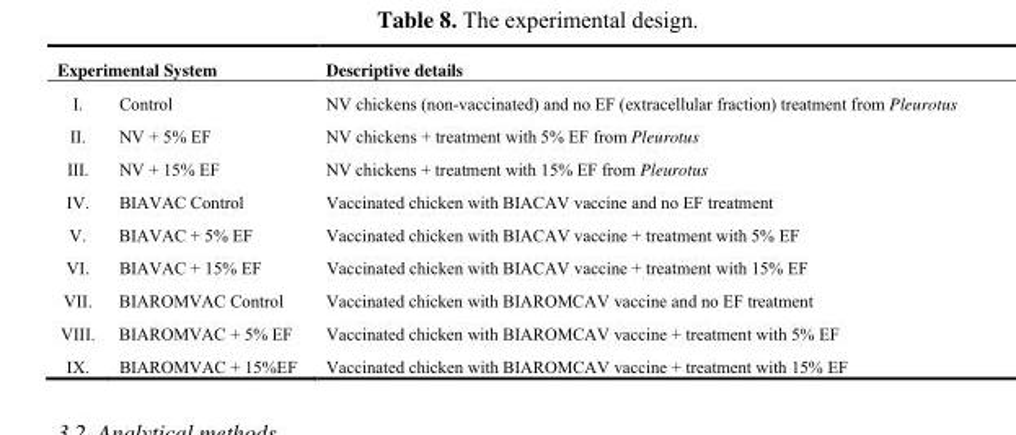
<table><thead><tr><td colspan="2">Experimental System</td><td rowspan="2">Descriptive details NV chickens (non-vaccinated) and no EF (extracellular fraction) treatment from Pleurotus</td></tr><tr><td>I.</td><td>Control</td></tr></thead><tbody><tr><td>II.</td><td>NV + 5% EF</td><td>NV chickens + treatment with 5% EF from Pleurotus</td></tr><tr><td>III.</td><td>NV + 15% EF</td><td>NV chickens + treatment with 15% EF from Pleurotus</td></tr><tr><td>IV.</td><td>BIAVAC Control</td><td>Vaccinated chicken with BIACAV vaccine and no EF treatment</td></tr><tr><td>V.</td><td>BIAVAC + 5% EF</td><td>Vaccinated chicken with BIACAV vaccine + treatment with 5% EF</td></tr><tr><td>VI.</td><td>BIAVAC + 15% EF</td><td>Vaccinated chicken with BIACAV vaccine + treatment with 15% EF</td></tr><tr><td>VII.</td><td>BIAROMVAC Control</td><td>Vaccinated chicken with BIAROMCAV vaccine and no EF treatment</td></tr><tr><td>VIII.</td><td>BIAROMVAC + 5% EF</td><td>Vaccinated chicken with BIAROMCAV vaccine + treatment with 5% EF</td></tr><tr><td>IX.</td><td>BIAROMVAC + 15%EF</td><td>Vaccinated chicken with BIAROMCAV vaccine + treatment with 15% EF</td></tr></tbody></table>